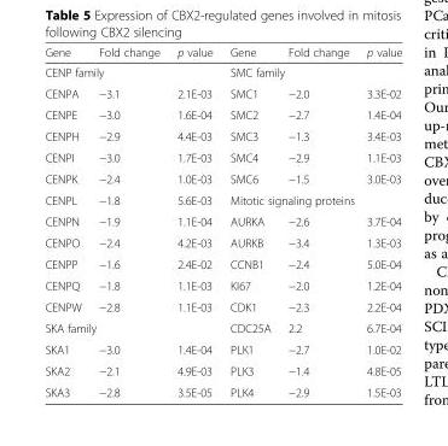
<table><thead><tr><td>Gene</td><td>Fold change</td><td>p value</td><td>Gene</td><td>Fold change</td><td>p value</td></tr></thead><tbody><tr><td colspan="3">CENP family</td><td colspan="3">SMC family</td></tr><tr><td>CENPA</td><td>−3.1</td><td>2.1E-03</td><td>SMC1</td><td>−2.0</td><td>3.3E-02</td></tr><tr><td>CENPE</td><td>−3.0</td><td>1.6E-04</td><td>SMC2</td><td>−2.7</td><td>1.4E-04</td></tr><tr><td>CENPH</td><td>−2.9</td><td>4.4E-03</td><td>SMC3</td><td>−1.3</td><td>3.4E-03</td></tr><tr><td>CENPI</td><td>−3.0</td><td>1.7E-03</td><td>SMC4</td><td>−2.9</td><td>1.1E-03</td></tr><tr><td>CENPK</td><td>−2.4</td><td>1.0E-03</td><td>SMC6</td><td>−1.5</td><td>3.0E-03</td></tr><tr><td>CENPL</td><td>−1.8</td><td>5.6E-03</td><td colspan="3">Mitotic signaling proteins</td></tr><tr><td>CENPN</td><td>−1.9</td><td>1.1E-04</td><td>AURKA</td><td>−2.6</td><td>3.7E-04</td></tr><tr><td>CENPO</td><td>−2.4</td><td>4.2E-03</td><td>AURKB</td><td>−3.4</td><td>1.3E-03</td></tr><tr><td>CENPP</td><td>−1.6</td><td>2.4E-02</td><td>CCNB1</td><td>−2.4</td><td>5.0E-04</td></tr><tr><td>CENPQ</td><td>−1.8</td><td>1.1E-03</td><td>KI67</td><td>−2.0</td><td>1.2E-04</td></tr><tr><td>CENPW</td><td>−2.8</td><td>1.1E-03</td><td>CDK1</td><td>−2.3</td><td>2.2E-04</td></tr><tr><td colspan="3">SKA family</td><td>CDC25A</td><td>2.2</td><td>6.7E-04</td></tr><tr><td>SKA1</td><td>−3.0</td><td>1.4E-04</td><td>PLK1</td><td>−2.7</td><td>1.0E-02</td></tr><tr><td>SKA2</td><td>−2.1</td><td>4.9E-03</td><td>PLK3</td><td>−1.4</td><td>4.8E-05</td></tr><tr><td>SKA3</td><td>−2.8</td><td>3.5E-05</td><td>PLK4</td><td>−2.9</td><td>1.5E-03</td></tr></tbody></table>